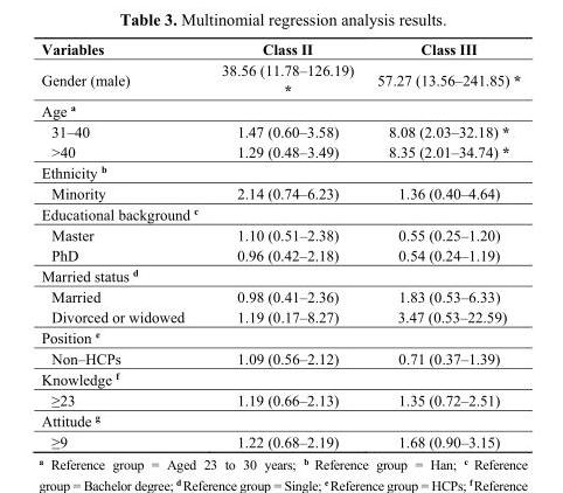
<table><thead><tr><td>Variables</td><td>Class II</td><td>Class III</td></tr></thead><tbody><tr><td>Gender (male)</td><td>38.56 (11.78–126.19) *</td><td>57.27 (13.56–241.85) *</td></tr><tr><td colspan="3">Age <sup>a</sup></td></tr><tr><td>31–40</td><td>1.47 (0.60–3.58)</td><td>8.08 (2.03–32.18) *</td></tr><tr><td>&gt;40</td><td>1.29 (0.48–3.49)</td><td>8.35 (2.01–34.74) *</td></tr><tr><td colspan="3">Ethnicity <sup>b</sup></td></tr><tr><td>Minority</td><td>2.14 (0.74–6.23)</td><td>1.36 (0.40–4.64)</td></tr><tr><td colspan="3">Educational background <sup>c</sup></td></tr><tr><td>Master</td><td>1.10 (0.51–2.38)</td><td>0.55 (0.25–1.20)</td></tr><tr><td>PhD</td><td>0.96 (0.42–2.18)</td><td>0.54 (0.24–1.19)</td></tr><tr><td colspan="3">Married status <sup>d</sup></td></tr><tr><td>Married</td><td>0.98 (0.41–2.36)</td><td>1.83 (0.53–6.33)</td></tr><tr><td>Divorced or widowed</td><td>1.19 (0.17–8.27)</td><td>3.47 (0.53–22.59)</td></tr><tr><td colspan="3">Position <sup>e</sup></td></tr><tr><td>Non–HCPs</td><td>1.09 (0.56–2.12)</td><td>0.71 (0.37–1.39)</td></tr><tr><td colspan="3">Knowledge <sup>f</sup></td></tr><tr><td>≥23</td><td>1.19 (0.66–2.13)</td><td>1.35 (0.72–2.51)</td></tr><tr><td colspan="3">Attitude <sup>g</sup></td></tr><tr><td>≥9</td><td>1.22 (0.68–2.19)</td><td>1.68 (0.90–3.15)</td></tr></tbody></table>